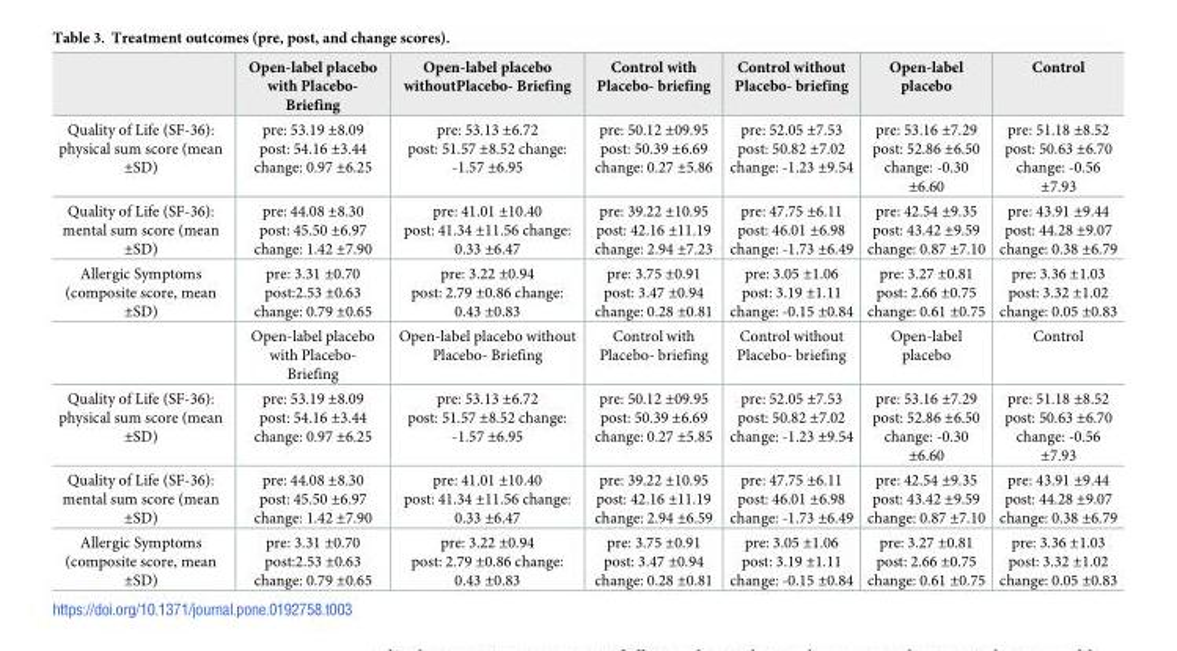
<table><thead><tr><td></td><td>Open-label placebo with Placebo- Briefing</td><td>Open-label placebo withoutPlacebo- Briefing</td><td>Control with Placebo- briefing</td><td>Control without Placebo- briefing</td><td>Open-label placebo</td><td>Control</td></tr></thead><tbody><tr><td>Quality of Life (SF-36): physical sum score (mean ±SD)</td><td>pre: 53.19 ±8.09 post: 54.16 ±3.44 change: 0.97 ±6.25</td><td>pre: 53.13 ±6.72 post: 51.57 ±8.52 change: -1.57 ±6.95</td><td>pre: 50.12 ±09.95 post: 50.39 ±6.69 change: 0.27 ±5.86</td><td>pre: 52.05 ±7.53 post: 50.82 ±7.02 change: -1.23 ±9.54</td><td>pre: 53.16 ±7.29 post: 52.86 ±6.50 change: -0.30 ±6.60</td><td>pre: 51.18 ±8.52 post: 50.63 ±6.70 change: -0.56 ±7.93</td></tr><tr><td>Quality of Life (SF-36): mental sum score (mean ±SD)</td><td>pre: 44.08 ±8.30 post: 45.50 ±6.97 change: 1.42 ±7.90</td><td>pre: 41.01 ±10.40 post: 41.34 ±11.56 change: 0.33 ±6.47</td><td>pre: 39.22 ±10.95 post: 42.16 ±11.19 change: 2.94 ±7.23</td><td>pre: 47.75 ±6.11 post: 46.01 ±6.98 change: -1.73 ±6.49</td><td>pre: 42.54 ±9.35 post: 43.42 ±9.59 change: 0.87 ±7.10</td><td>pre: 43.91 ±9.44 post: 44.28 ±9.07 change: 0.38 ±6.79</td></tr><tr><td rowspan="2">Allergic Symptoms (composite score, mean ±SD)</td><td>pre: 3.31 ±0.70 post:2.53 ±0.63 change: 0.79 ±0.65</td><td>pre: 3.22 ±0.94 post: 2.79 ±0.86 change: 0.43 ±0.83</td><td>pre: 3.75 ±0.91 post: 3.47 ±0.94 change: 0.28 ±0.81</td><td>pre: 3.05 ±1.06 post: 3.19 ±1.11 change: -0.15 ±0.84</td><td>pre: 3.27 ±0.81 post: 2.66 ±0.75 change: 0.61 ±0.75</td><td>pre: 3.36 ±1.03 post: 3.32 ±1.02 change: 0.05 ±0.83</td></tr><tr><td>Open-label placebo with Placebo- Briefing</td><td>Open-label placebo without Placebo- Briefing</td><td>Control with Placebo- briefing</td><td>Control without Placebo- briefing</td><td>Open-label placebo</td><td>Control</td></tr><tr><td>Quality of Life (SF-36): physical sum score (mean ±SD)</td><td>pre: 53.19 ±8.09 post: 54.16 ±3.44 change: 0.97 ±6.25</td><td>pre: 53.13 ±6.72 post: 51.57 ±8.52 change: -1.57 ±6.95</td><td>pre: 50.12 ±09.95 post: 50.39 ±6.69 change: 0.27 ±5.85</td><td>pre: 52.05 ±7.53 post: 50.82 ±7.02 change: -1.23 ±9.54</td><td>pre: 53.16 ±7.29 post: 52.86 ±6.50 change: -0.30 ±6.60</td><td>pre: 51.18 ±8.52 post: 50.63 ±6.70 change: -0.56 ±7.93</td></tr><tr><td>Quality of Life (SF-36): mental sum score (mean ±SD)</td><td>pre: 44.08 ±8.30 post: 45.50 ±6.97 change: 1.42 ±7.90</td><td>pre: 41.01 ±10.40 post: 41.34 ±11.56 change: 0.33 ±6.47</td><td>pre: 39.22 ±10.95 post: 42.16 ±11.19 change: 2.94 ±6.59</td><td>pre: 47.75 ±6.11 post: 46.01 ±6.98 change: -1.73 ±6.49</td><td>pre: 42.54 ±9.35 post: 43.42 ±9.59 change: 0.87 ±7.10</td><td>pre: 43.91 ±9.44 post: 44.28 ±9.07 change: 0.38 ±6.79</td></tr><tr><td>Allergic Symptoms (composite score, mean ±SD)</td><td>pre: 3.31 ±0.70 post:2.53 ±0.63 change: 0.79 ±0.65</td><td>pre: 3.22 ±0.94 post: 2.79 ±0.86 change: 0.43 ±0.83</td><td>pre: 3.75 ±0.91 post: 3.47 ±0.94 change: 0.28 ±0.81</td><td>pre: 3.05 ±1.06 post: 3.19 ±1.11 change: -0.15 ±0.84</td><td>pre: 3.27 ±0.81 post: 2.66 ±0.75 change: 0.61 ±0.75</td><td>pre: 3.36 ±1.03 post: 3.32 ±1.02 change: 0.05 ±0.83</td></tr></tbody></table>